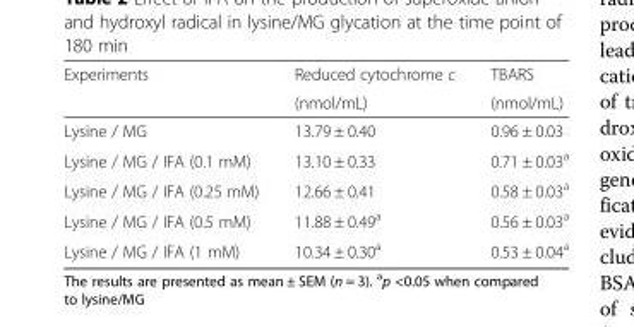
<table><thead><tr><td rowspan="2">Experiments</td><td rowspan="2">Reduced cytochrome c (nmol/mL)</td><td rowspan="2">TBARS (nmol/mL)</td></tr><tr></tr></thead><tbody><tr><td>Lysine / MG</td><td>13.79 ± 0.40</td><td>0.96 ± 0.03</td></tr><tr><td>Lysine / MG / IFA (0.1 mM)</td><td>13.10 ± 0.33</td><td>0.71 ± 0.03<sup>a</sup></td></tr><tr><td>Lysine / MG / IFA (0.25 mM)</td><td>12.66 ± 0.41</td><td>0.58 ± 0.03<sup>a</sup></td></tr><tr><td>Lysine / MG / IFA (0.5 mM)</td><td>11.88 ± 0.49<sup>a</sup></td><td>0.56 ± 0.03<sup>a</sup></td></tr><tr><td>Lysine / MG / IFA (1 mM)</td><td>10.34 ± 0.30<sup>a</sup></td><td>0.53 ± 0.04<sup>a</sup></td></tr></tbody></table>